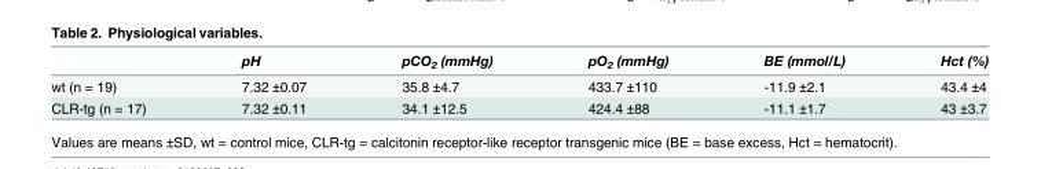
<table><thead><tr><td></td><td>pH</td><td>pCO<sub>2</sub> (mmHg)</td><td>pO<sub>2</sub> (mmHg)</td><td>BE (mmol/L)</td><td>Hct (%)</td></tr></thead><tbody><tr><td>wt (n = 19)</td><td>7.32 ±0.07</td><td>35.8 ±4.7</td><td>433.7 ±110</td><td>-11.9 ±2.1</td><td>43.4 ±4</td></tr><tr><td>CLR-tg (n = 17)</td><td>7.32 ±0.11</td><td>34.1 ±12.5</td><td>424.4 ±88</td><td>-11.1 ±1.7</td><td>43 ±3.7</td></tr></tbody></table>